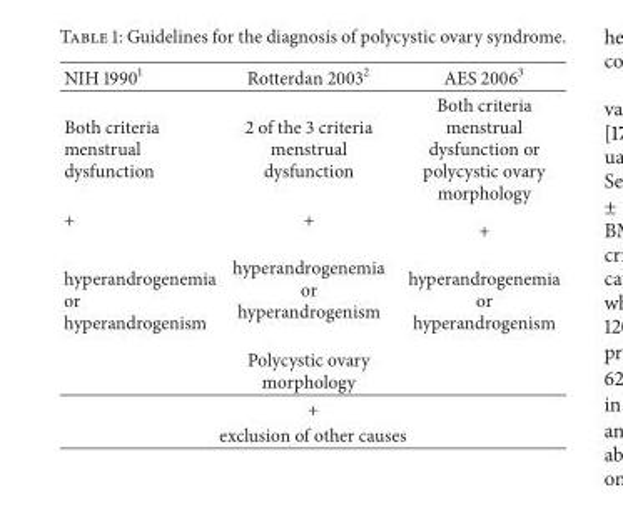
<table><thead><tr><td>NIH 1990<sup>1</sup></td><td>Rotterdan 2003<sup>2</sup></td><td>AES 2006<sup>3</sup></td></tr></thead><tbody><tr><td>Both criteria menstrual dysfunction</td><td>2 of the 3 criteria menstrual dysfunction</td><td>Both criteria menstrual dysfunction or polycystic ovary morphology</td></tr><tr><td>+</td><td>+</td><td>+</td></tr><tr><td rowspan="2">hyperandrogenemia or hyperandrogenism</td><td>hyperandrogenemia or hyperandrogenism</td><td>hyperandrogenemia or hyperandrogenism</td></tr><tr><td>Polycystic ovary morphology</td><td></td></tr><tr><td colspan="3">+</td></tr><tr><td colspan="3">exclusion of other causes</td></tr></tbody></table>